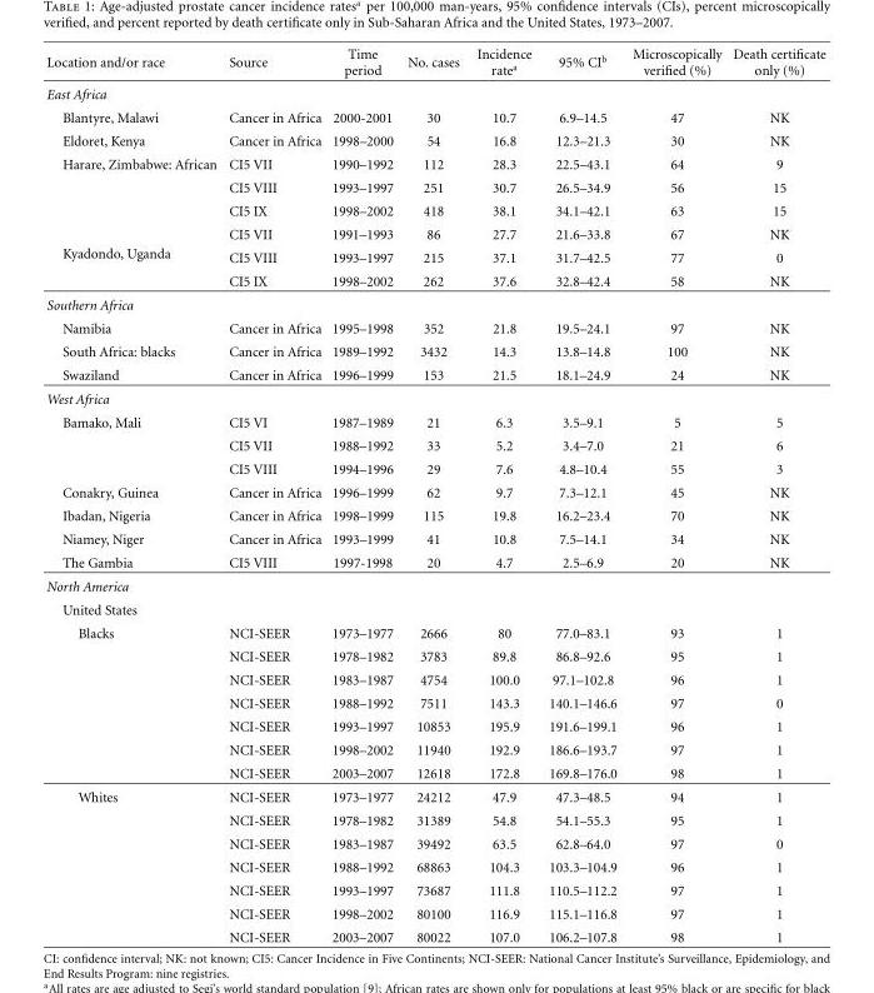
<table><thead><tr><td>Location and/or race</td><td>Source</td><td>Time period</td><td>No. cases</td><td>Incidence rate<sup>a</sup></td><td>95% CI<sup>b</sup></td><td>Microscopically verified (%)</td><td>Death certificate only (%)</td></tr></thead><tbody><tr><td colspan="8">East Africa</td></tr><tr><td>Blantyre, Malawi</td><td>Cancer in Africa</td><td>2000-2001</td><td>30</td><td>10.7</td><td>6.9–14.5</td><td>47</td><td>NK</td></tr><tr><td>Eldoret, Kenya</td><td>Cancer in Africa</td><td>1998–2000</td><td>54</td><td>16.8</td><td>12.3–21.3</td><td>30</td><td>NK</td></tr><tr><td rowspan="3">Harare, Zimbabwe: African</td><td>CI5 VII</td><td>1990–1992</td><td>112</td><td>28.3</td><td>22.5–43.1</td><td>64</td><td>9</td></tr><tr><td>CI5 VIII</td><td>1993–1997</td><td>251</td><td>30.7</td><td>26.5–34.9</td><td>56</td><td>15</td></tr><tr><td>CI5 IX</td><td>1998–2002</td><td>418</td><td>38.1</td><td>34.1–42.1</td><td>63</td><td>15</td></tr><tr><td rowspan="3">Kyadondo, Uganda</td><td>CI5 VII</td><td>1991–1993</td><td>86</td><td>27.7</td><td>21.6–33.8</td><td>67</td><td>NK</td></tr><tr><td>CI5 VIII</td><td>1993–1997</td><td>215</td><td>37.1</td><td>31.7–42.5</td><td>77</td><td>0</td></tr><tr><td>CI5 IX</td><td>1998–2002</td><td>262</td><td>37.6</td><td>32.8–42.4</td><td>58</td><td>NK</td></tr><tr><td colspan="8">Southern Africa</td></tr><tr><td>Namibia</td><td>Cancer in Africa</td><td>1995–1998</td><td>352</td><td>21.8</td><td>19.5–24.1</td><td>97</td><td>NK</td></tr><tr><td>South Africa: blacks</td><td>Cancer in Africa</td><td>1989–1992</td><td>3432</td><td>14.3</td><td>13.8–14.8</td><td>100</td><td>NK</td></tr><tr><td>Swaziland</td><td>Cancer in Africa</td><td>1996–1999</td><td>153</td><td>21.5</td><td>18.1–24.9</td><td>24</td><td>NK</td></tr><tr><td colspan="8">West Africa</td></tr><tr><td rowspan="3">Bamako, Mali</td><td>CI5 VI</td><td>1987–1989</td><td>21</td><td>6.3</td><td>3.5–9.1</td><td>5</td><td>5</td></tr><tr><td>CI5 VII</td><td>1988–1992</td><td>33</td><td>5.2</td><td>3.4–7.0</td><td>21</td><td>6</td></tr><tr><td>CI5 VIII</td><td>1994–1996</td><td>29</td><td>7.6</td><td>4.8–10.4</td><td>55</td><td>3</td></tr><tr><td>Conakry, Guinea</td><td>Cancer in Africa</td><td>1996–1999</td><td>62</td><td>9.7</td><td>7.3–12.1</td><td>45</td><td>NK</td></tr><tr><td>Ibadan, Nigeria</td><td>Cancer in Africa</td><td>1998–1999</td><td>115</td><td>19.8</td><td>16.2–23.4</td><td>70</td><td>NK</td></tr><tr><td>Niamey, Niger</td><td>Cancer in Africa</td><td>1993–1999</td><td>41</td><td>10.8</td><td>7.5–14.1</td><td>34</td><td>NK</td></tr><tr><td>The Gambia</td><td>CI5 VIII</td><td>1997-1998</td><td>20</td><td>4.7</td><td>2.5–6.9</td><td>20</td><td>NK</td></tr><tr><td colspan="8">North America</td></tr><tr><td colspan="8">United States</td></tr><tr><td rowspan="7">Blacks</td><td>NCI-SEER</td><td>1973–1977</td><td>2666</td><td>80</td><td>77.0–83.1</td><td>93</td><td>1</td></tr><tr><td>NCI-SEER</td><td>1978–1982</td><td>3783</td><td>89.8</td><td>86.8–92.6</td><td>95</td><td>1</td></tr><tr><td>NCI-SEER</td><td>1983–1987</td><td>4754</td><td>100.0</td><td>97.1–102.8</td><td>96</td><td>1</td></tr><tr><td>NCI-SEER</td><td>1988–1992</td><td>7511</td><td>143.3</td><td>140.1–146.6</td><td>97</td><td>0</td></tr><tr><td>NCI-SEER</td><td>1993–1997</td><td>10853</td><td>195.9</td><td>191.6–199.1</td><td>96</td><td>1</td></tr><tr><td>NCI-SEER</td><td>1998–2002</td><td>11940</td><td>192.9</td><td>186.6–193.7</td><td>97</td><td>1</td></tr><tr><td>NCI-SEER</td><td>2003–2007</td><td>12618</td><td>172.8</td><td>169.8–176.0</td><td>98</td><td>1</td></tr><tr><td rowspan="7">Whites</td><td>NCI-SEER</td><td>1973–1977</td><td>24212</td><td>47.9</td><td>47.3–48.5</td><td>94</td><td>1</td></tr><tr><td>NCI-SEER</td><td>1978–1982</td><td>31389</td><td>54.8</td><td>54.1–55.3</td><td>95</td><td>1</td></tr><tr><td>NCI-SEER</td><td>1983–1987</td><td>39492</td><td>63.5</td><td>62.8–64.0</td><td>97</td><td>0</td></tr><tr><td>NCI-SEER</td><td>1988–1992</td><td>68863</td><td>104.3</td><td>103.3–104.9</td><td>96</td><td>1</td></tr><tr><td>NCI-SEER</td><td>1993–1997</td><td>73687</td><td>111.8</td><td>110.5–112.2</td><td>97</td><td>1</td></tr><tr><td>NCI-SEER</td><td>1998–2002</td><td>80100</td><td>116.9</td><td>115.1–116.8</td><td>97</td><td>1</td></tr><tr><td>NCI-SEER</td><td>2003–2007</td><td>80022</td><td>107.0</td><td>106.2–107.8</td><td>98</td><td>1</td></tr></tbody></table>